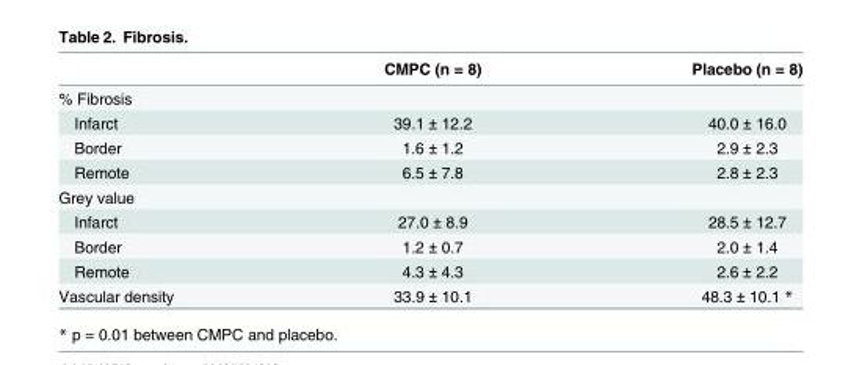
<table><thead><tr><td></td><td>CMPC (n = 8)</td><td>Placebo (n = 8)</td></tr></thead><tbody><tr><td colspan="3">% Fibrosis</td></tr><tr><td>Infarct</td><td>39.1 ± 12.2</td><td>40.0 ± 16.0</td></tr><tr><td>Border</td><td>1.6 ± 1.2</td><td>2.9 ± 2.3</td></tr><tr><td>Remote</td><td>6.5 ± 7.8</td><td>2.8 ± 2.3</td></tr><tr><td colspan="3">Grey value</td></tr><tr><td>Infarct</td><td>27.0 ± 8.9</td><td>28.5 ± 12.7</td></tr><tr><td>Border</td><td>1.2 ± 0.7</td><td>2.0 ± 1.4</td></tr><tr><td>Remote</td><td>4.3 ± 4.3</td><td>2.6 ± 2.2</td></tr><tr><td>Vascular density</td><td>33.9 ± 10.1</td><td>48.3 ± 10.1 *</td></tr></tbody></table>